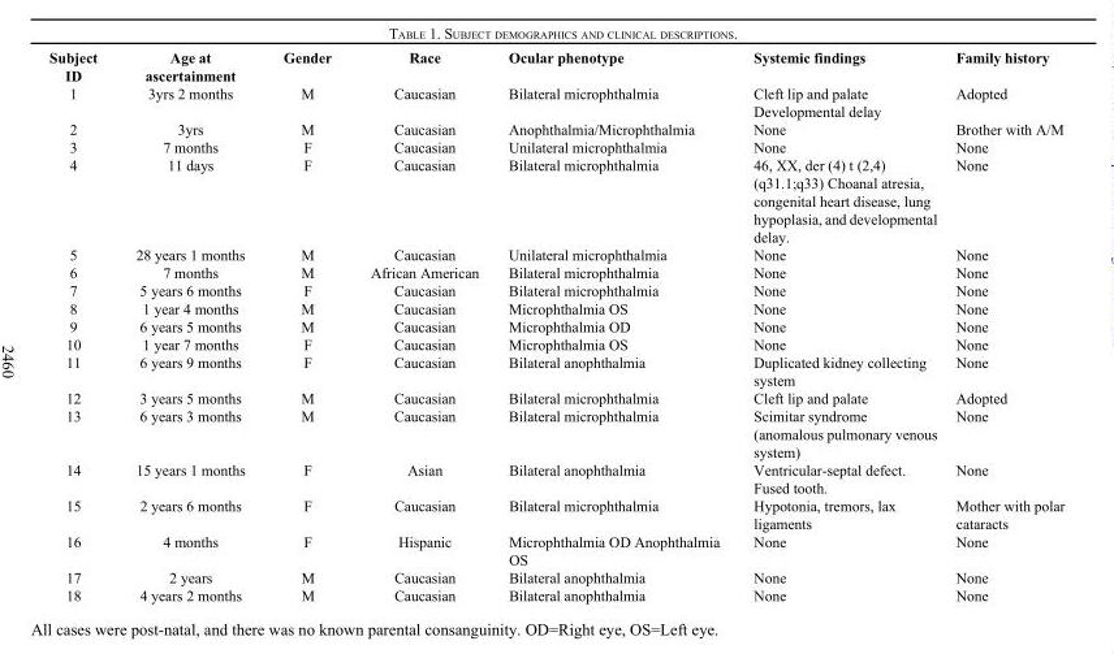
<table><thead><tr><td>Subject ID</td><td>Age at ascertainment</td><td>Gender</td><td>Race</td><td>Ocular phenotype</td><td>Systemic findings</td><td>Family history</td></tr></thead><tbody><tr><td>1</td><td>3yrs 2 months</td><td>M</td><td>Caucasian</td><td>Bilateral microphthalmia</td><td>Cleft lip and palate Developmental delay</td><td>Adopted</td></tr><tr><td>2</td><td>3yrs</td><td>M</td><td>Caucasian</td><td>Anophthalmia/Microphthalmia</td><td>None</td><td>Brother with A/M</td></tr><tr><td>3</td><td>7 months</td><td>F</td><td>Caucasian</td><td>Unilateral microphthalmia</td><td>None</td><td>None</td></tr><tr><td>4</td><td>11 days</td><td>F</td><td>Caucasian</td><td>Bilateral microphthalmia</td><td>46, XX, der (4) t (2,4) (q31.1;q33) Choanal atresia, congenital heart disease, lung hypoplasia, and developmental delay.</td><td>None</td></tr><tr><td>5</td><td>28 years 1 months</td><td>M</td><td>Caucasian</td><td>Unilateral microphthalmia</td><td>None</td><td>None</td></tr><tr><td>6</td><td>7 months</td><td>M</td><td>African American</td><td>Bilateral microphthalmia</td><td>None</td><td>None</td></tr><tr><td>7</td><td>5 years 6 months</td><td>F</td><td>Caucasian</td><td>Bilateral microphthalmia</td><td>None</td><td>None</td></tr><tr><td>8</td><td>1 year 4 months</td><td>M</td><td>Caucasian</td><td>Microphthalmia OS</td><td>None</td><td>None</td></tr><tr><td>9</td><td>6 years 5 months</td><td>M</td><td>Caucasian</td><td>Microphthalmia OD</td><td>None</td><td>None</td></tr><tr><td>10</td><td>1 year 7 months</td><td>F</td><td>Caucasian</td><td>Microphthalmia OS</td><td>None</td><td>None</td></tr><tr><td>11</td><td>6 years 9 months</td><td>F</td><td>Caucasian</td><td>Bilateral anophthalmia</td><td>Duplicated kidney collecting system</td><td>None</td></tr><tr><td>12</td><td>3 years 5 months</td><td>M</td><td>Caucasian</td><td>Bilateral microphthalmia</td><td>Cleft lip and palate</td><td>Adopted</td></tr><tr><td>13</td><td>6 years 3 months</td><td>M</td><td>Caucasian</td><td>Bilateral microphthalmia</td><td>Scimitar syndrome (anomalous pulmonary venous system)</td><td>None</td></tr><tr><td>14</td><td>15 years 1 months</td><td>F</td><td>Asian</td><td>Bilateral anophthalmia</td><td>Ventricular-septal defect. Fused tooth.</td><td>None</td></tr><tr><td>15</td><td>2 years 6 months</td><td>F</td><td>Caucasian</td><td>Bilateral microphthalmia</td><td>Hypotonia, tremors, lax ligaments</td><td>Mother with polar cataracts</td></tr><tr><td>16</td><td>4 months</td><td>F</td><td>Hispanic</td><td>Microphthalmia OD Anophthalmia OS</td><td>None</td><td>None</td></tr><tr><td>17</td><td>2 years</td><td>M</td><td>Caucasian</td><td>Bilateral anophthalmia</td><td>None</td><td>None</td></tr><tr><td>18</td><td>4 years 2 months</td><td>M</td><td>Caucasian</td><td>Bilateral anophthalmia</td><td>None</td><td>None</td></tr></tbody></table>